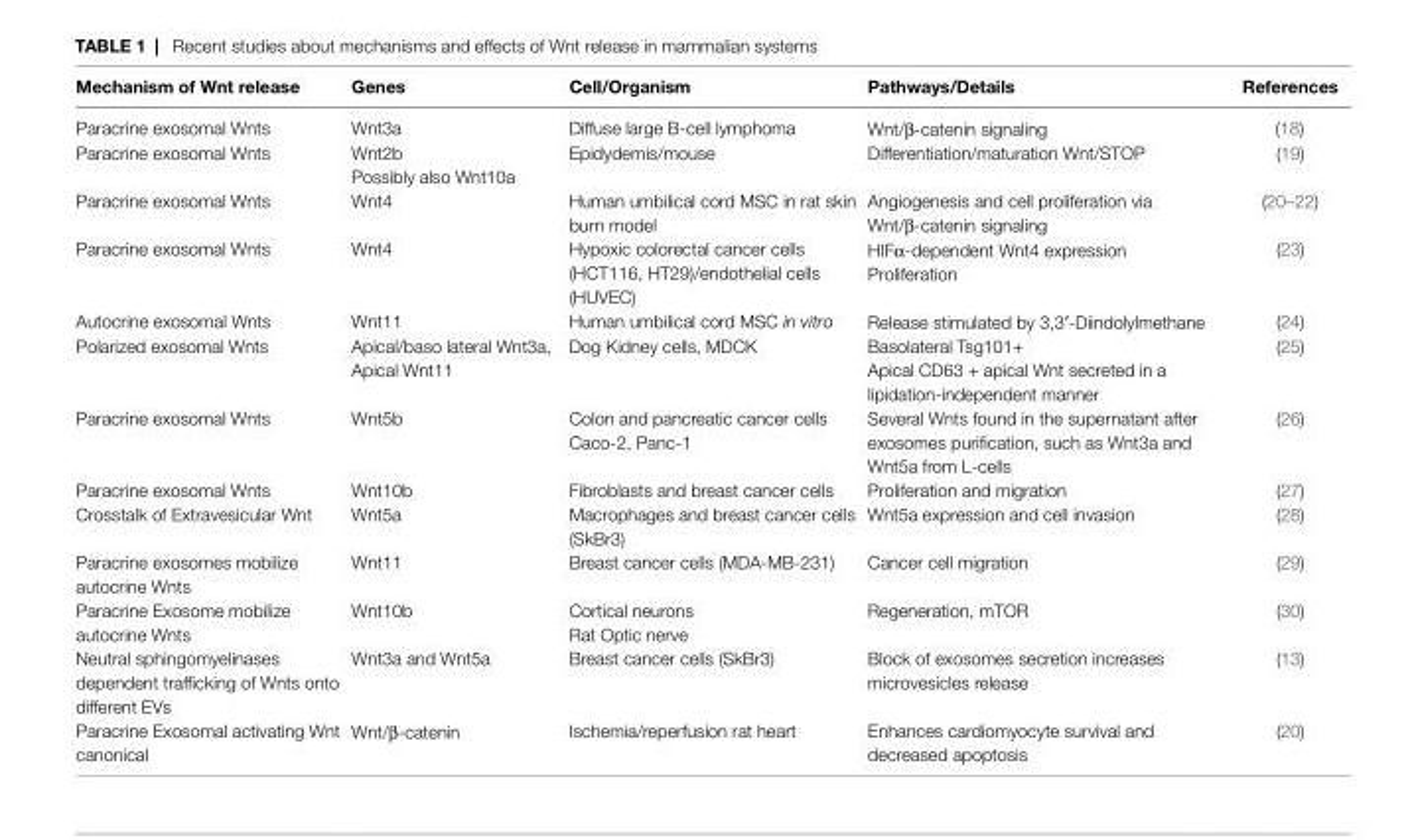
<table><thead><tr><td>Mechanism of wnt release</td><td>genes</td><td>Cell/Organism</td><td>Pathways/Details</td><td>References</td></tr></thead><tbody><tr><td>Paracrine exosomal Wnts</td><td>Wnt3a</td><td>Diffuse large B-cell lymphoma</td><td>Wnt/β-catenin signaling</td><td>(18)</td></tr><tr><td>Paracrine exosomal Wnts</td><td>Wnt2b Possibly also Wnt10a</td><td>Epidydemis/mouse</td><td>Differentiation/maturation Wnt/STOP</td><td>(19)</td></tr><tr><td>Paracrine exosomal Wnts</td><td>Wnt4</td><td>Human umbilical cord MSC in rat skin burn model</td><td>Angiogenesis and cell proliferation via Wnt/β-catenin signaling</td><td>(20–22)</td></tr><tr><td>Paracrine exosomal Wnts</td><td>Wnt4</td><td>Hypoxic colorectal cancer cells (HCT116, HT29)/endothelial cells (HUVEC)</td><td>HIFα-dependent Wnt4 expression Proliferation</td><td>(23)</td></tr><tr><td>Autocrine exosomal Wnts</td><td>Wnt11</td><td>Human umbilical cord MSC in vitro</td><td>Release stimulated by 3,3′-Diindolylmethane</td><td>(24)</td></tr><tr><td>Polarized exosomal Wnts</td><td>Apical/baso lateral Wnt3a, Apical Wnt11</td><td>Dog Kidney cells, MDCK</td><td>Basolateral Tsg101+ Apical CD63 + apical Wnt secreted in a lipidation-independent manner</td><td>(25)</td></tr><tr><td>Paracrine exosomal Wnts</td><td>Wnt5b</td><td>Colon and pancreatic cancer cells Caco-2, Panc-1</td><td>Several Wnts found in the supernatant after exosomes purification, such as Wnt3a and Wnt5a from L-cells</td><td>(26)</td></tr><tr><td>Paracrine exosomal Wnts</td><td>Wnt10b</td><td>Fibroblasts and breast cancer cells</td><td>Proliferation and migration</td><td>(27)</td></tr><tr><td>Crosstalk of Extravesicular Wnt</td><td>Wnt5a</td><td>Macrophages and breast cancer cells (SkBr3)</td><td>Wnt5a expression and cell invasion</td><td>(28)</td></tr><tr><td>Paracrine exosomes mobilize autocrine Wnts</td><td>Wnt11</td><td>Breast cancer cells (MDA-MB-231)</td><td>Cancer cell migration</td><td>(29)</td></tr><tr><td>Paracrine Exosome mobilize autocrine Wnts</td><td>Wnt10b</td><td>Cortical neurons Rat Optic nerve</td><td>Regeneration, mTOR</td><td>(30)</td></tr><tr><td>Neutral sphingomyelinases dependent trafficking of Wnts onto different EVs</td><td>Wnt3a and Wnt5a</td><td>Breast cancer cells (SkBr3)</td><td>Block of exosomes secretion increases microvesicles release</td><td>(13)</td></tr><tr><td>Paracrine Exosomal activating Wnt canonical</td><td>Wnt/β-catenin</td><td>Ischemia/reperfusion rat heart</td><td>Enhances cardiomyocyte survival and decreased apoptosis</td><td>(20)</td></tr></tbody></table>